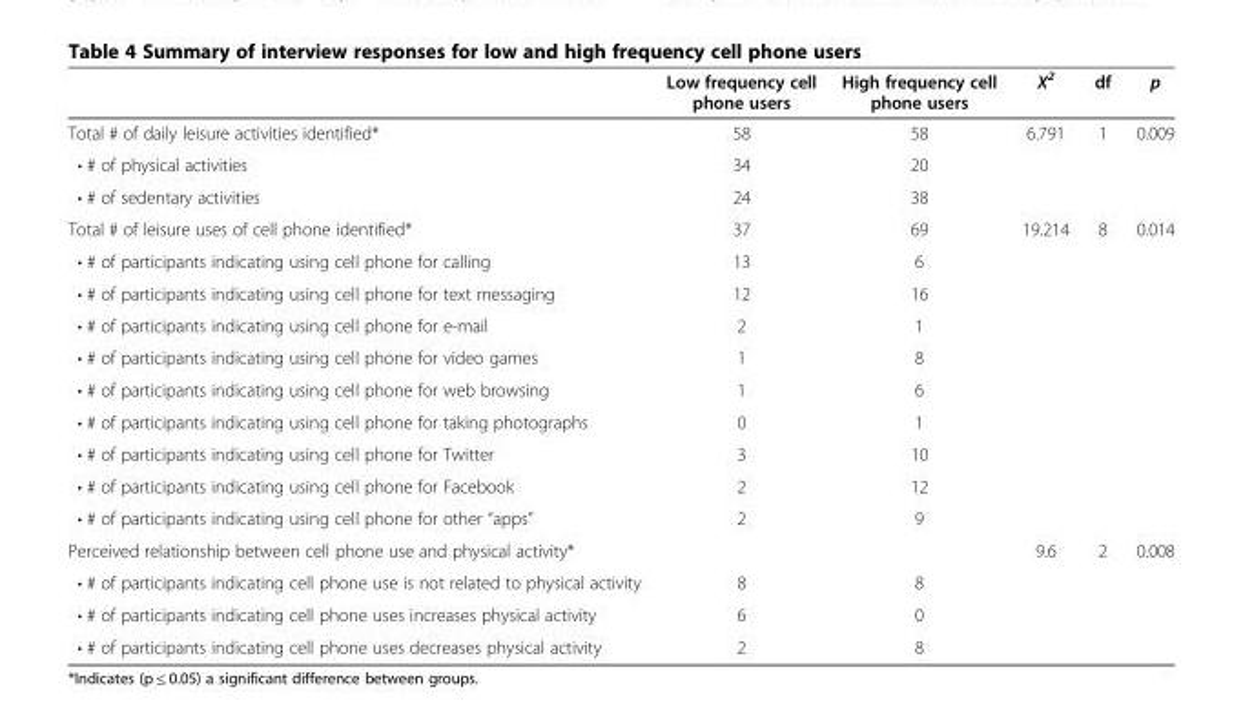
<table><thead><tr><td></td><td>Low frequency cell phone users</td><td>High frequency cell phone users</td><td>X<sup>2</sup></td><td>df</td><td>p</td></tr></thead><tbody><tr><td>Total # of daily leisure activities identified*</td><td>58</td><td>58</td><td>6.791</td><td>1</td><td>0.009</td></tr><tr><td>• # of physical activities</td><td>34</td><td>20</td><td></td><td></td><td></td></tr><tr><td>• # of sedentary activities</td><td>24</td><td>38</td><td></td><td></td><td></td></tr><tr><td>Total # of leisure uses of cell phone identified*</td><td>37</td><td>69</td><td>19.214</td><td>8</td><td>0.014</td></tr><tr><td>• # of participants indicating using cell phone for calling</td><td>13</td><td>6</td><td></td><td></td><td></td></tr><tr><td>• # of participants indicating using cell phone for text messaging</td><td>12</td><td>16</td><td></td><td></td><td></td></tr><tr><td>• # of participants indicating using cell phone for e-mail</td><td>2</td><td>1</td><td></td><td></td><td></td></tr><tr><td>• # of participants indicating using cell phone for video games</td><td>1</td><td>8</td><td></td><td></td><td></td></tr><tr><td>• # of participants indicating using cell phone for web browsing</td><td>1</td><td>6</td><td></td><td></td><td></td></tr><tr><td>• # of participants indicating using cell phone for taking photographs</td><td>0</td><td>1</td><td></td><td></td><td></td></tr><tr><td>• # of participants indicating using cell phone for Twitter</td><td>3</td><td>10</td><td></td><td></td><td></td></tr><tr><td>• # of participants indicating using cell phone for Facebook</td><td>2</td><td>12</td><td></td><td></td><td></td></tr><tr><td>• # of participants indicating using cell phone for other “apps”</td><td>2</td><td>9</td><td></td><td></td><td></td></tr><tr><td>Perceived relationship between cell phone use and physical activity*</td><td></td><td></td><td>9.6</td><td>2</td><td>0.008</td></tr><tr><td>• # of participants indicating cell phone use is not related to physical activity</td><td>8</td><td>8</td><td></td><td></td><td></td></tr><tr><td>• # of participants indicating cell phone uses increases physical activity</td><td>6</td><td>0</td><td></td><td></td><td></td></tr><tr><td>• # of participants indicating cell phone uses decreases physical activity</td><td>2</td><td>8</td><td></td><td></td><td></td></tr></tbody></table>